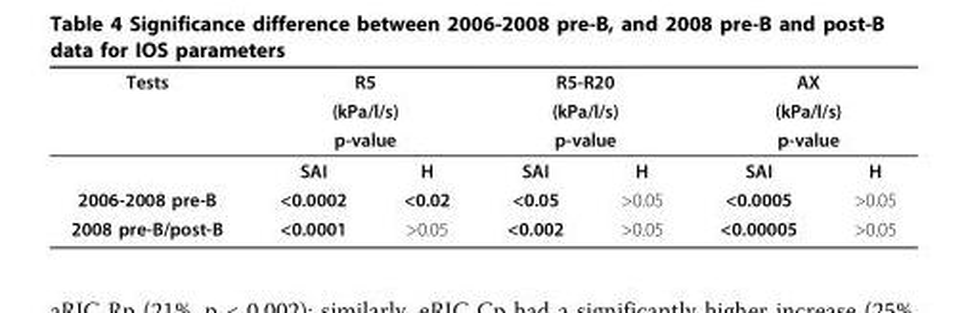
<table><thead><tr><td rowspan="4">Tests</td><td rowspan="3" colspan="2">R5 (kPa/l/s) p-value</td><td rowspan="3" colspan="2">R5-R20 (kPa/l/s) p-value</td><td rowspan="3" colspan="2">AX (kPa/l/s) p-value</td></tr><tr></tr><tr></tr><tr><td>SAI</td><td>H</td><td>SAI</td><td>H</td><td>SAI</td><td>H</td></tr></thead><tbody><tr><td>2006-2008 pre-B</td><td>&lt;0.0002</td><td>&lt;0.02</td><td>&lt;0.05</td><td>&gt;0.05</td><td>&lt;0.0005</td><td>&gt;0.05</td></tr><tr><td>2008 pre-B/post-B</td><td>&lt;0.0001</td><td>&gt;0.05</td><td>&lt;0.002</td><td>&gt;0.05</td><td>&lt;0.00005</td><td>&gt;0.05</td></tr></tbody></table>